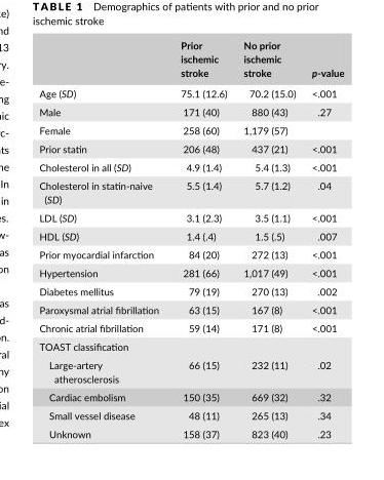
<table><thead><tr><td></td><td>Prior ischemic stroke</td><td>No prior ischemic stroke</td><td>p- value</td></tr></thead><tbody><tr><td>Age (SD)</td><td>75.1 (12.6)</td><td>70.2 (15.0)</td><td>&lt;.001</td></tr><tr><td>Male</td><td>171 (40)</td><td>880 (43)</td><td>.27</td></tr><tr><td>Female</td><td>258 (60)</td><td>1,179 (57)</td><td></td></tr><tr><td>Prior statin</td><td>206 (48)</td><td>437 (21)</td><td>&lt;.001</td></tr><tr><td>Cholesterol in all (SD)</td><td>4.9 (1.4)</td><td>5.4 (1.3)</td><td>&lt;.001</td></tr><tr><td>Cholesterol in statin- naive (SD)</td><td>5.5 (1.4)</td><td>5.7 (1.2)</td><td>.04</td></tr><tr><td>LDL (SD)</td><td>3.1 (2.3)</td><td>3.5 (1.1)</td><td>&lt;.001</td></tr><tr><td>HDL (SD)</td><td>1.4 (.4)</td><td>1.5 (.5)</td><td>.007</td></tr><tr><td>Prior myocardial infarction</td><td>84 (20)</td><td>272 (13)</td><td>&lt;.001</td></tr><tr><td>Hypertension</td><td>281 (66)</td><td>1,017 (49)</td><td>&lt;.001</td></tr><tr><td>Diabetes mellitus</td><td>79 (19)</td><td>270 (13)</td><td>.002</td></tr><tr><td>Paroxysmal atrial fibrillation</td><td>63 (15)</td><td>167 (8)</td><td>&lt;.001</td></tr><tr><td>Chronic atrial fibrillation</td><td>59 (14)</td><td>171 (8)</td><td>&lt;.001</td></tr><tr><td colspan="4">TOAST classification</td></tr><tr><td>Large- artery atherosclerosis</td><td>66 (15)</td><td>232 (11)</td><td>.02</td></tr><tr><td>Cardiac embolism</td><td>150 (35)</td><td>669 (32)</td><td>.32</td></tr><tr><td>Small vessel disease</td><td>48 (11)</td><td>265 (13)</td><td>.34</td></tr><tr><td>Unknown</td><td>158 (37)</td><td>823 (40)</td><td>.23</td></tr></tbody></table>